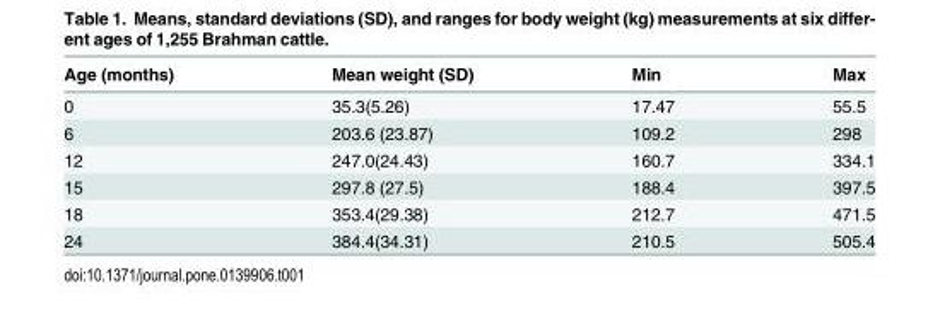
<table><thead><tr><td>Age (months)</td><td>Mean weight (SD)</td><td>Min</td><td>Max</td></tr></thead><tbody><tr><td>0</td><td>35.3(5.26)</td><td>17.47</td><td>55.5</td></tr><tr><td>6</td><td>203.6 (23.87)</td><td>109.2</td><td>298</td></tr><tr><td>12</td><td>247.0(24.43)</td><td>160.7</td><td>334.1</td></tr><tr><td>15</td><td>297.8 (27.5)</td><td>188.4</td><td>397.5</td></tr><tr><td>18</td><td>353.4(29.38)</td><td>212.7</td><td>471.5</td></tr><tr><td>24</td><td>384.4(34.31)</td><td>210.5</td><td>505.4</td></tr></tbody></table>